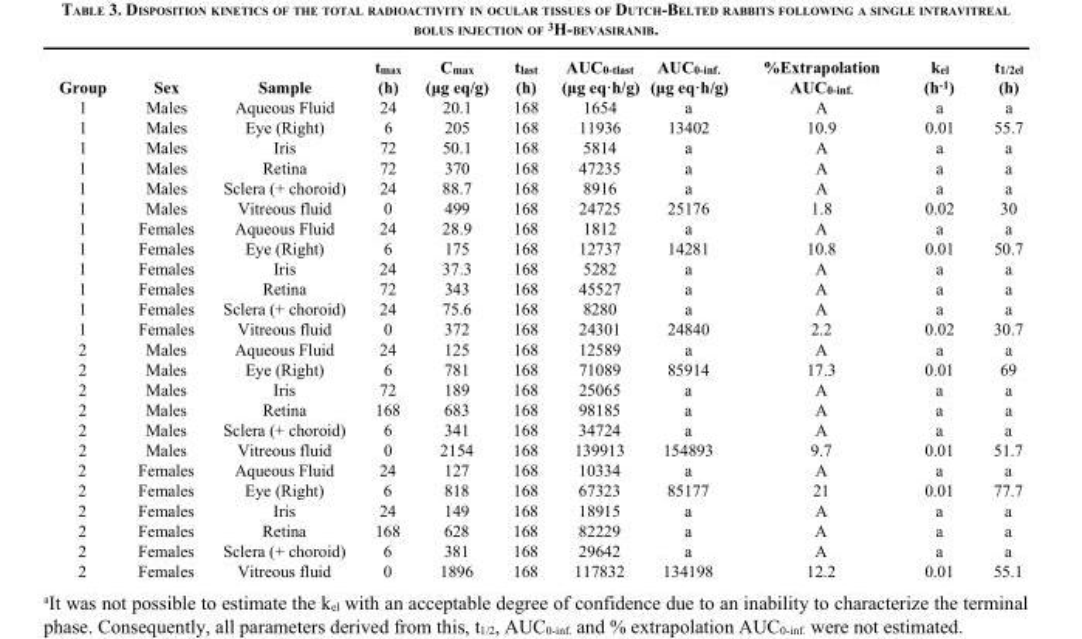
<table><thead><tr><td></td><td></td><td></td><td>t<sub>max</sub></td><td>C<sub>max</sub></td><td>t<sub>last</sub></td><td>AUC<sub>0-tlast</sub></td><td>AUC<sub>0-inf.</sub></td><td>%Extrapolation</td><td>k<sub>el</sub></td><td>t<sub>1/2el</sub></td></tr></thead><tbody><tr><td>Group</td><td>Sex</td><td>Sample</td><td>(h)</td><td>(μg eq/g)</td><td>(h)</td><td>(μg eq·h/g)</td><td>(μg eq·h/g)</td><td>AUC<sub>0-inf.</sub></td><td>(h<sup>-1</sup>)</td><td>(h)</td></tr><tr><td>1</td><td>Males</td><td>Aqueous Fluid</td><td>24</td><td>20.1</td><td>168</td><td>1654</td><td>a</td><td>A</td><td>a</td><td>a</td></tr><tr><td>1</td><td>Males</td><td>Eye (Right)</td><td>6</td><td>205</td><td>168</td><td>11936</td><td>13402</td><td>10.9</td><td>0.01</td><td>55.7</td></tr><tr><td>1</td><td>Males</td><td>Iris</td><td>72</td><td>50.1</td><td>168</td><td>5814</td><td>a</td><td>A</td><td>a</td><td>a</td></tr><tr><td>1</td><td>Males</td><td>Retina</td><td>72</td><td>370</td><td>168</td><td>47235</td><td>a</td><td>A</td><td>a</td><td>a</td></tr><tr><td>1</td><td>Males</td><td>Sclera (+ choroid)</td><td>24</td><td>88.7</td><td>168</td><td>8916</td><td>a</td><td>A</td><td>a</td><td>a</td></tr><tr><td>1</td><td>Males</td><td>Vitreous fluid</td><td>0</td><td>499</td><td>168</td><td>24725</td><td>25176</td><td>1.8</td><td>0.02</td><td>30</td></tr><tr><td>1</td><td>Females</td><td>Aqueous Fluid</td><td>24</td><td>28.9</td><td>168</td><td>1812</td><td>a</td><td>A</td><td>a</td><td>a</td></tr><tr><td>1</td><td>Females</td><td>Eye (Right)</td><td>6</td><td>175</td><td>168</td><td>12737</td><td>14281</td><td>10.8</td><td>0.01</td><td>50.7</td></tr><tr><td>1</td><td>Females</td><td>Iris</td><td>24</td><td>37.3</td><td>168</td><td>5282</td><td>a</td><td>A</td><td>a</td><td>a</td></tr><tr><td>1</td><td>Females</td><td>Retina</td><td>72</td><td>343</td><td>168</td><td>45527</td><td>a</td><td>A</td><td>a</td><td>a</td></tr><tr><td>1</td><td>Females</td><td>Sclera (+ choroid)</td><td>24</td><td>75.6</td><td>168</td><td>8280</td><td>a</td><td>A</td><td>a</td><td>a</td></tr><tr><td>1</td><td>Females</td><td>Vitreous fluid</td><td>0</td><td>372</td><td>168</td><td>24301</td><td>24840</td><td>2.2</td><td>0.02</td><td>30.7</td></tr><tr><td>2</td><td>Males</td><td>Aqueous Fluid</td><td>24</td><td>125</td><td>168</td><td>12589</td><td>a</td><td>A</td><td>a</td><td>a</td></tr><tr><td>2</td><td>Males</td><td>Eye (Right)</td><td>6</td><td>781</td><td>168</td><td>71089</td><td>85914</td><td>17.3</td><td>0.01</td><td>69</td></tr><tr><td>2</td><td>Males</td><td>Iris</td><td>72</td><td>189</td><td>168</td><td>25065</td><td>a</td><td>A</td><td>a</td><td>a</td></tr><tr><td>2</td><td>Males</td><td>Retina</td><td>168</td><td>683</td><td>168</td><td>98185</td><td>a</td><td>A</td><td>a</td><td>a</td></tr><tr><td>2</td><td>Males</td><td>Sclera (+ choroid)</td><td>6</td><td>341</td><td>168</td><td>34724</td><td>a</td><td>A</td><td>a</td><td>a</td></tr><tr><td>2</td><td>Males</td><td>Vitreous fluid</td><td>0</td><td>2154</td><td>168</td><td>139913</td><td>154893</td><td>9.7</td><td>0.01</td><td>51.7</td></tr><tr><td>2</td><td>Females</td><td>Aqueous Fluid</td><td>24</td><td>127</td><td>168</td><td>10334</td><td>a</td><td>A</td><td>a</td><td>a</td></tr><tr><td>2</td><td>Females</td><td>Eye (Right)</td><td>6</td><td>818</td><td>168</td><td>67323</td><td>85177</td><td>21</td><td>0.01</td><td>77.7</td></tr><tr><td>2</td><td>Females</td><td>Iris</td><td>24</td><td>149</td><td>168</td><td>18915</td><td>a</td><td>A</td><td>a</td><td>a</td></tr><tr><td>2</td><td>Females</td><td>Retina</td><td>168</td><td>628</td><td>168</td><td>82229</td><td>a</td><td>A</td><td>a</td><td>a</td></tr><tr><td>2</td><td>Females</td><td>Sclera (+ choroid)</td><td>6</td><td>381</td><td>168</td><td>29642</td><td>a</td><td>A</td><td>a</td><td>a</td></tr><tr><td>2</td><td>Females</td><td>Vitreous fluid</td><td>0</td><td>1896</td><td>168</td><td>117832</td><td>134198</td><td>12.2</td><td>0.01</td><td>55.1</td></tr></tbody></table>